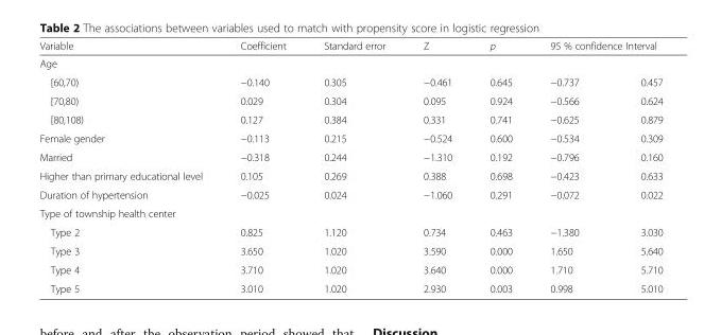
<table><thead><tr><td>Variable</td><td>Coefficient</td><td>Standard error</td><td>Z</td><td>p</td><td colspan="2">95 % confidence Interval</td></tr><tr><td colspan="7">Age</td></tr><tr><td>[60,70)</td><td>−0.140</td><td>0.305</td><td>−0.461</td><td>0.645</td><td>−0.737</td><td>0.457</td></tr></thead><tbody><tr><td>[70,80)</td><td>0.029</td><td>0.304</td><td>0.095</td><td>0.924</td><td>−0.566</td><td>0.624</td></tr><tr><td>[80,108)</td><td>0.127</td><td>0.384</td><td>0.331</td><td>0.741</td><td>−0.625</td><td>0.879</td></tr><tr><td>Female gender</td><td>−0.113</td><td>0.215</td><td>−0.524</td><td>0.600</td><td>−0.534</td><td>0.309</td></tr><tr><td>Married</td><td>−0.318</td><td>0.244</td><td>−1.310</td><td>0.192</td><td>−0.796</td><td>0.160</td></tr><tr><td>Higher than primary educational level</td><td>0.105</td><td>0.269</td><td>0.388</td><td>0.698</td><td>−0.423</td><td>0.633</td></tr><tr><td>Duration of hypertension</td><td>−0.025</td><td>0.024</td><td>−1.060</td><td>0.291</td><td>−0.072</td><td>0.022</td></tr><tr><td colspan="7">Type of township health center</td></tr><tr><td>Type 2</td><td>0.825</td><td>1.120</td><td>0.734</td><td>0.463</td><td>−1.380</td><td>3.030</td></tr><tr><td>Type 3</td><td>3.650</td><td>1.020</td><td>3.590</td><td>0.000</td><td>1.650</td><td>5.640</td></tr><tr><td>Type 4</td><td>3.710</td><td>1.020</td><td>3.640</td><td>0.000</td><td>1.710</td><td>5.710</td></tr><tr><td>Type 5</td><td>3.010</td><td>1.020</td><td>2.930</td><td>0.003</td><td>0.998</td><td>5.010</td></tr></tbody></table>